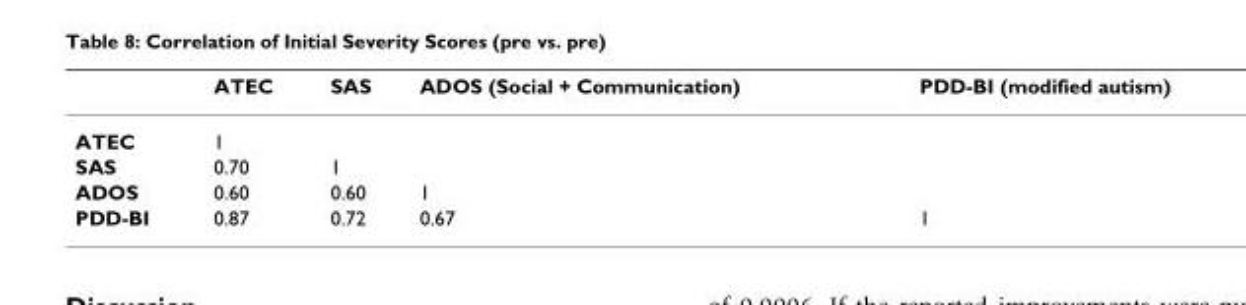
<table><thead><tr><td></td><td>ATEC</td><td>SAS</td><td>ADOS (Social + Communication)</td><td>PDD-BI (modified autism)</td></tr></thead><tbody><tr><td>ATEC</td><td>1</td><td></td><td></td><td></td></tr><tr><td>SAS</td><td>0.70</td><td>1</td><td></td><td></td></tr><tr><td>ADOS</td><td>0.60</td><td>0.60</td><td>1</td><td></td></tr><tr><td>PDD-BI</td><td>0.87</td><td>0.72</td><td>0.67</td><td>1</td></tr></tbody></table>